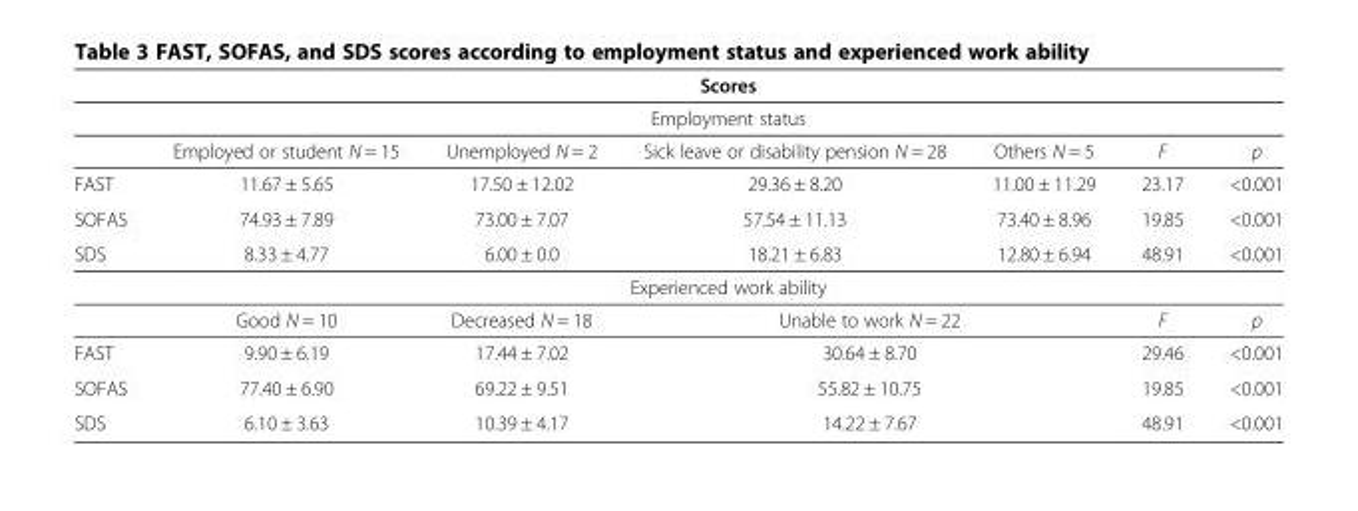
<table><thead><tr><td rowspan="3"></td><td rowspan="2" colspan="6">Scores Employment status</td></tr><tr></tr><tr><td>Employed or student N = 15</td><td>Unemployed N = 2</td><td>Sick leave or disability pension N = 28</td><td>Others N = 5</td><td>F</td><td>p</td></tr></thead><tbody><tr><td>FAST</td><td>11.67 ± 5.65</td><td>17.50 ± 12.02</td><td>29.36 ± 8.20</td><td>11.00 ± 11.29</td><td>23.17</td><td>&lt;0.001</td></tr><tr><td>SOFAS</td><td>74.93 ± 7.89</td><td>73.00 ± 7.07</td><td>57.54 ± 11.13</td><td>73.40 ± 8.96</td><td>19.85</td><td>&lt;0.001</td></tr><tr><td rowspan="3">SDS</td><td>8.33 ± 4.77</td><td>6.00 ± 0.0</td><td>18.21 ± 6.83</td><td>12.80 ± 6.94</td><td>48.91</td><td>&lt;0.001</td></tr><tr><td colspan="6">Experienced work ability</td></tr><tr><td>Good N = 10</td><td>Decreased N = 18</td><td colspan="2">Unable to work N = 22</td><td>F</td><td>p</td></tr><tr><td>FAST</td><td>9.90 ± 6.19</td><td>17.44 ± 7.02</td><td colspan="2">30.64 ± 8.70</td><td>29.46</td><td>&lt;0.001</td></tr><tr><td>SOFAS</td><td>77.40 ± 6.90</td><td>69.22 ± 9.51</td><td colspan="2">55.82 ± 10.75</td><td>19.85</td><td>&lt;0.001</td></tr><tr><td>SDS</td><td>6.10 ± 3.63</td><td>10.39 ± 4.17</td><td colspan="2">14.22 ± 7.67</td><td>48.91</td><td>&lt;0.001</td></tr></tbody></table>